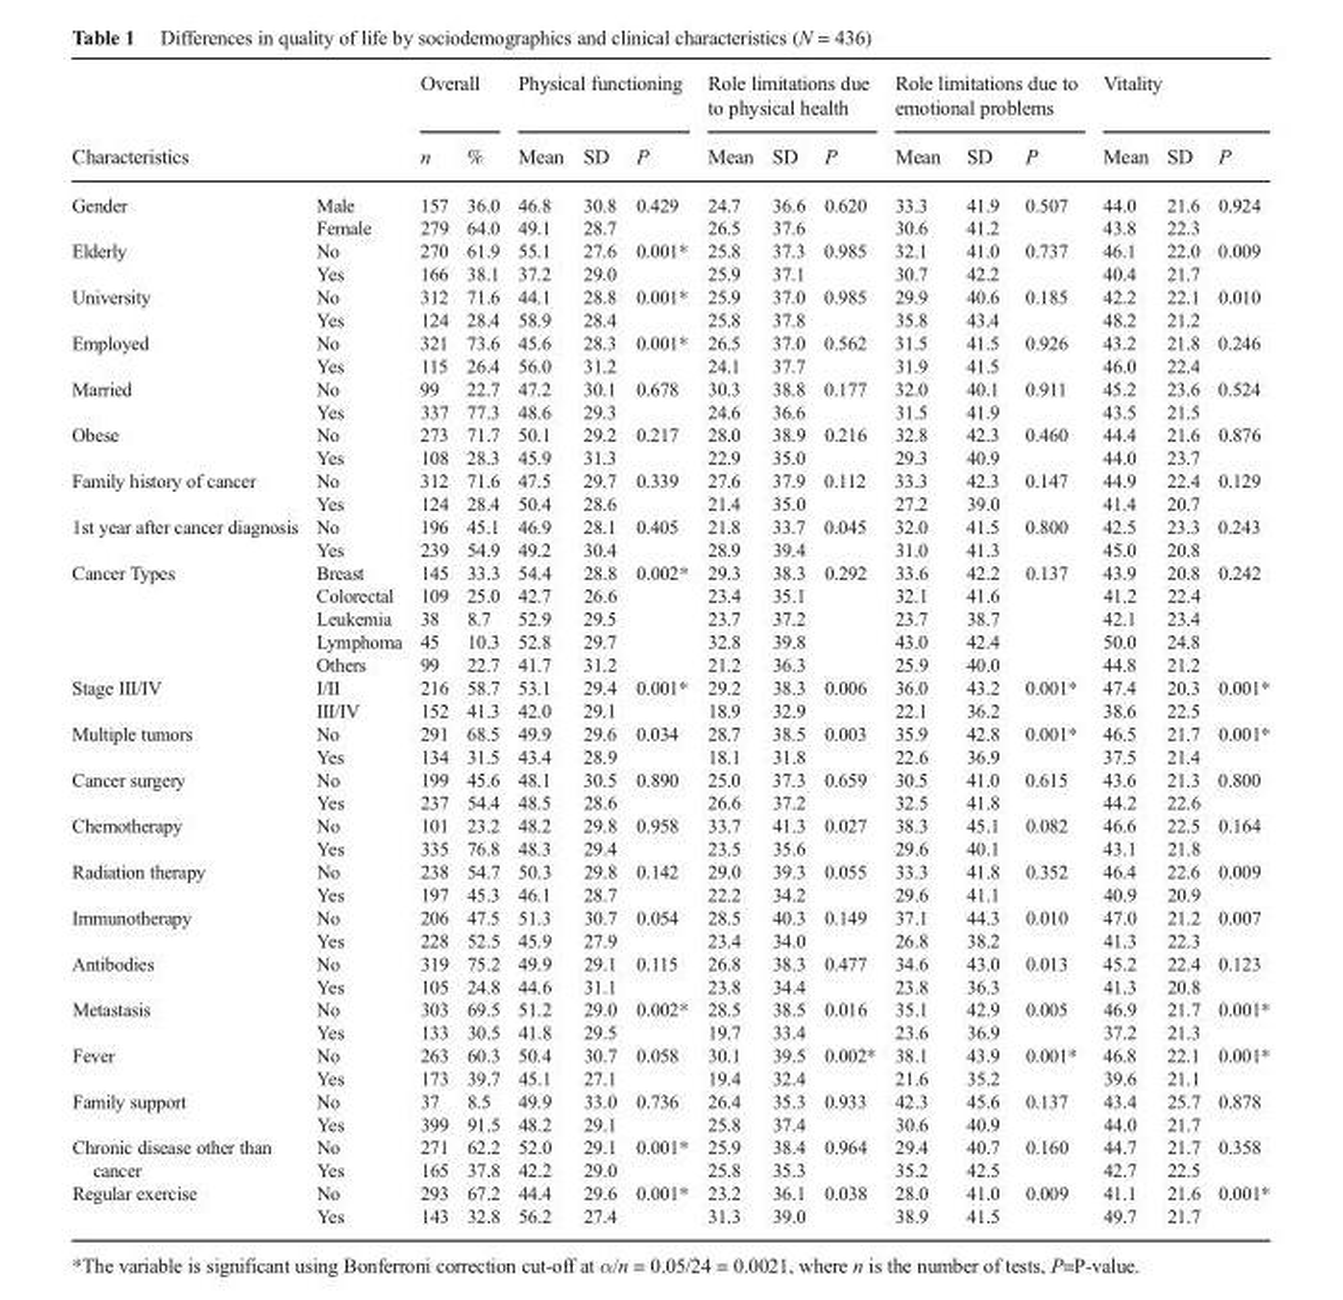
<table><thead><tr><td></td><td></td><td colspan="2">Overall</td><td colspan="3">Physical functioning</td><td colspan="3">Role limitations due to physical health</td><td colspan="3">Role limitations due to emotional problems</td><td colspan="3">Vitality</td></tr><tr><td colspan="2">Characteristics</td><td>n</td><td>%</td><td>Mean</td><td>SD</td><td>P</td><td>Mean</td><td>SD</td><td>P</td><td>Mean</td><td>SD</td><td>P</td><td>Mean</td><td>SD</td><td>P</td></tr></thead><tbody><tr><td rowspan="2">Gender</td><td>Male</td><td>157</td><td>36.0</td><td>46.8</td><td>30.8</td><td>0.429</td><td>24.7</td><td>36.6</td><td>0.620</td><td>33.3</td><td>41.9</td><td>0.507</td><td>44.0</td><td>21.6</td><td>0.924</td></tr><tr><td>Female</td><td>279</td><td>64.0</td><td>49.1</td><td>28.7</td><td></td><td>26.5</td><td>37.6</td><td></td><td>30.6</td><td>41.2</td><td></td><td>43.8</td><td>22.3</td><td></td></tr><tr><td rowspan="2">Elderly</td><td>No</td><td>270</td><td>61.9</td><td>55.1</td><td>27.6</td><td>0.001*</td><td>25.8</td><td>37.3</td><td>0.985</td><td>32.1</td><td>41.0</td><td>0.737</td><td>46.1</td><td>22.0</td><td>0.009</td></tr><tr><td>Yes</td><td>166</td><td>38.1</td><td>37.2</td><td>29.0</td><td></td><td>25.9</td><td>37.1</td><td></td><td>30.7</td><td>42.2</td><td></td><td>40.4</td><td>21.7</td><td></td></tr><tr><td rowspan="2">University</td><td>No</td><td>312</td><td>71.6</td><td>44.1</td><td>28.8</td><td>0.001*</td><td>25.9</td><td>37.0</td><td>0.985</td><td>29.9</td><td>40.6</td><td>0.185</td><td>42.2</td><td>22.1</td><td>0.010</td></tr><tr><td>Yes</td><td>124</td><td>28.4</td><td>58.9</td><td>28.4</td><td></td><td>25.8</td><td>37.8</td><td></td><td>35.8</td><td>43.4</td><td></td><td>48.2</td><td>21.2</td><td></td></tr><tr><td rowspan="2">Employed</td><td>No</td><td>321</td><td>73.6</td><td>45.6</td><td>28.3</td><td>0.001*</td><td>26.5</td><td>37.0</td><td>0.562</td><td>31.5</td><td>41.5</td><td>0.926</td><td>43.2</td><td>21.8</td><td>0.246</td></tr><tr><td>Yes</td><td>115</td><td>26.4</td><td>56.0</td><td>31.2</td><td></td><td>24.1</td><td>37.7</td><td></td><td>31.9</td><td>41.5</td><td></td><td>46.0</td><td>22.4</td><td></td></tr><tr><td rowspan="2">Married</td><td>No</td><td>99</td><td>22.7</td><td>47.2</td><td>30.1</td><td>0.678</td><td>30.3</td><td>38.8</td><td>0.177</td><td>32.0</td><td>40.1</td><td>0.911</td><td>45.2</td><td>23.6</td><td>0.524</td></tr><tr><td>Yes</td><td>337</td><td>77.3</td><td>48.6</td><td>29.3</td><td></td><td>24.6</td><td>36.6</td><td></td><td>31.5</td><td>41.9</td><td></td><td>43.5</td><td>21.5</td><td></td></tr><tr><td rowspan="2">Obese</td><td>No</td><td>273</td><td>71.7</td><td>50.1</td><td>29.2</td><td>0.217</td><td>28.0</td><td>38.9</td><td>0.216</td><td>32.8</td><td>42.3</td><td>0.460</td><td>44.4</td><td>21.6</td><td>0.876</td></tr><tr><td>Yes</td><td>108</td><td>28.3</td><td>45.9</td><td>31.3</td><td></td><td>22.9</td><td>35.0</td><td></td><td>29.3</td><td>40.9</td><td></td><td>44.0</td><td>23.7</td><td></td></tr><tr><td rowspan="2">Family history of cancer</td><td>No</td><td>312</td><td>71.6</td><td>47.5</td><td>29.7</td><td>0.339</td><td>27.6</td><td>37.9</td><td>0.112</td><td>33.3</td><td>42.3</td><td>0.147</td><td>44.9</td><td>22.4</td><td>0.129</td></tr><tr><td>Yes</td><td>124</td><td>28.4</td><td>50.4</td><td>28.6</td><td></td><td>21.4</td><td>35.0</td><td></td><td>27.2</td><td>39.0</td><td></td><td>41.4</td><td>20.7</td><td></td></tr><tr><td rowspan="2">1st year after cancer diagnosis</td><td>No</td><td>196</td><td>45.1</td><td>46.9</td><td>28.1</td><td>0.405</td><td>21.8</td><td>33.7</td><td>0.045</td><td>32.0</td><td>41.5</td><td>0.800</td><td>42.5</td><td>23.3</td><td>0.243</td></tr><tr><td>Yes</td><td>239</td><td>54.9</td><td>49.2</td><td>30.4</td><td></td><td>28.9</td><td>39.4</td><td></td><td>31.0</td><td>41.3</td><td></td><td>45.0</td><td>20.8</td><td></td></tr><tr><td rowspan="5">Cancer Types</td><td>Breast</td><td>145</td><td>33.3</td><td>54.4</td><td>28.8</td><td>0.002*</td><td>29.3</td><td>38.3</td><td>0.292</td><td>33.6</td><td>42.2</td><td>0.137</td><td>43.9</td><td>20.8</td><td>0.242</td></tr><tr><td>Colorectal</td><td>109</td><td>25.0</td><td>42.7</td><td>26.6</td><td></td><td>23.4</td><td>35.1</td><td></td><td>32.1</td><td>41.6</td><td></td><td>41.2</td><td>22.4</td><td></td></tr><tr><td>Leukemia</td><td>38</td><td>8.7</td><td>52.9</td><td>29.5</td><td></td><td>23.7</td><td>37.2</td><td></td><td>23.7</td><td>38.7</td><td></td><td>42.1</td><td>23.4</td><td></td></tr><tr><td>Lymphoma</td><td>45</td><td>10.3</td><td>52.8</td><td>29.7</td><td></td><td>32.8</td><td>39.8</td><td></td><td>43.0</td><td>42.4</td><td></td><td>50.0</td><td>24.8</td><td></td></tr><tr><td>Others</td><td>99</td><td>22.7</td><td>41.7</td><td>31.2</td><td></td><td>21.2</td><td>36.3</td><td></td><td>25.9</td><td>40.0</td><td></td><td>44.8</td><td>21.2</td><td></td></tr><tr><td rowspan="2">Stage III/IV</td><td>I/II</td><td>216</td><td>58.7</td><td>53.1</td><td>29.4</td><td>0.001*</td><td>29.2</td><td>38.3</td><td>0.006</td><td>36.0</td><td>43.2</td><td>0.001*</td><td>47.4</td><td>20.3</td><td>0.001*</td></tr><tr><td>III/IV</td><td>152</td><td>41.3</td><td>42.0</td><td>29.1</td><td></td><td>18.9</td><td>32.9</td><td></td><td>22.1</td><td>36.2</td><td></td><td>38.6</td><td>22.5</td><td></td></tr><tr><td rowspan="2">Multiple tumors</td><td>No</td><td>291</td><td>68.5</td><td>49.9</td><td>29.6</td><td>0.034</td><td>28.7</td><td>38.5</td><td>0.003</td><td>35.9</td><td>42.8</td><td>0.001*</td><td>46.5</td><td>21.7</td><td>0.001*</td></tr><tr><td>Yes</td><td>134</td><td>31.5</td><td>43.4</td><td>28.9</td><td></td><td>18.1</td><td>31.8</td><td></td><td>22.6</td><td>36.9</td><td></td><td>37.5</td><td>21.4</td><td></td></tr><tr><td rowspan="2">Cancer surgery</td><td>No</td><td>199</td><td>45.6</td><td>48.1</td><td>30.5</td><td>0.890</td><td>25.0</td><td>37.3</td><td>0.659</td><td>30.5</td><td>41.0</td><td>0.615</td><td>43.6</td><td>21.3</td><td>0.800</td></tr><tr><td>Yes</td><td>237</td><td>54.4</td><td>48.5</td><td>28.6</td><td></td><td>26.6</td><td>37.2</td><td></td><td>32.5</td><td>41.8</td><td></td><td>44.2</td><td>22.6</td><td></td></tr><tr><td rowspan="2">Chemotherapy</td><td>No</td><td>101</td><td>23.2</td><td>48.2</td><td>29.8</td><td>0.958</td><td>33.7</td><td>41.3</td><td>0.027</td><td>38.3</td><td>45.1</td><td>0.082</td><td>46.6</td><td>22.5</td><td>0.164</td></tr><tr><td>Yes</td><td>335</td><td>76.8</td><td>48.3</td><td>29.4</td><td></td><td>23.5</td><td>35.6</td><td></td><td>29.6</td><td>40.1</td><td></td><td>43.1</td><td>21.8</td><td></td></tr><tr><td rowspan="2">Radiation therapy</td><td>No</td><td>238</td><td>54.7</td><td>50.3</td><td>29.8</td><td>0.142</td><td>29.0</td><td>39.3</td><td>0.055</td><td>33.3</td><td>41.8</td><td>0.352</td><td>46.4</td><td>22.6</td><td>0.009</td></tr><tr><td>Yes</td><td>197</td><td>45.3</td><td>46.1</td><td>28.7</td><td></td><td>22.2</td><td>34.2</td><td></td><td>29.6</td><td>41.1</td><td></td><td>40.9</td><td>20.9</td><td></td></tr><tr><td rowspan="2">Immunotherapy</td><td>No</td><td>206</td><td>47.5</td><td>51.3</td><td>30.7</td><td>0.054</td><td>28.5</td><td>40.3</td><td>0.149</td><td>37.1</td><td>44.3</td><td>0.010</td><td>47.0</td><td>21.2</td><td>0.007</td></tr><tr><td>Yes</td><td>228</td><td>52.5</td><td>45.9</td><td>27.9</td><td></td><td>23.4</td><td>34.0</td><td></td><td>26.8</td><td>38.2</td><td></td><td>41.3</td><td>22.3</td><td></td></tr><tr><td rowspan="2">Antibodies</td><td>No</td><td>319</td><td>75.2</td><td>49.9</td><td>29.1</td><td>0.115</td><td>26.8</td><td>38.3</td><td>0.477</td><td>34.6</td><td>43.0</td><td>0.013</td><td>45.2</td><td>22.4</td><td>0.123</td></tr><tr><td>Yes</td><td>105</td><td>24.8</td><td>44.6</td><td>31.1</td><td></td><td>23.8</td><td>34.4</td><td></td><td>23.8</td><td>36.3</td><td></td><td>41.3</td><td>20.8</td><td></td></tr><tr><td rowspan="2">Metastasis</td><td>No</td><td>303</td><td>69.5</td><td>51.2</td><td>29.0</td><td>0.002*</td><td>28.5</td><td>38.5</td><td>0.016</td><td>35.1</td><td>42.9</td><td>0.005</td><td>46.9</td><td>21.7</td><td>0.001*</td></tr><tr><td>Yes</td><td>133</td><td>30.5</td><td>41.8</td><td>29.5</td><td></td><td>19.7</td><td>33.4</td><td></td><td>23.6</td><td>36.9</td><td></td><td>37.2</td><td>21.3</td><td></td></tr><tr><td rowspan="2">Fever</td><td>No</td><td>263</td><td>60.3</td><td>50.4</td><td>30.7</td><td>0.058</td><td>30.1</td><td>39.5</td><td>0.002*</td><td>38.1</td><td>43.9</td><td>0.001*</td><td>46.8</td><td>22.1</td><td>0.001*</td></tr><tr><td>Yes</td><td>173</td><td>39.7</td><td>45.1</td><td>27.1</td><td></td><td>19.4</td><td>32.4</td><td></td><td>21.6</td><td>35.2</td><td></td><td>39.6</td><td>21.1</td><td></td></tr><tr><td rowspan="2">Family support</td><td>No</td><td>37</td><td>8.5</td><td>49.9</td><td>33.0</td><td>0.736</td><td>26.4</td><td>35.3</td><td>0.933</td><td>42.3</td><td>45.6</td><td>0.137</td><td>43.4</td><td>25.7</td><td>0.878</td></tr><tr><td>Yes</td><td>399</td><td>91.5</td><td>48.2</td><td>29.1</td><td></td><td>25.8</td><td>37.4</td><td></td><td>30.6</td><td>40.9</td><td></td><td>44.0</td><td>21.7</td><td></td></tr><tr><td rowspan="2">Chronic disease other than cancer</td><td>No</td><td>271</td><td>62.2</td><td>52.0</td><td>29.1</td><td>0.001*</td><td>25.9</td><td>38.4</td><td>0.964</td><td>29.4</td><td>40.7</td><td>0.160</td><td>44.7</td><td>21.7</td><td>0.358</td></tr><tr><td>Yes</td><td>165</td><td>37.8</td><td>42.2</td><td>29.0</td><td></td><td>25.8</td><td>35.3</td><td></td><td>35.2</td><td>42.5</td><td></td><td>42.7</td><td>22.5</td><td></td></tr><tr><td rowspan="2">Regular exercise</td><td>No</td><td>293</td><td>67.2</td><td>44.4</td><td>29.6</td><td>0.001*</td><td>23.2</td><td>36.1</td><td>0.038</td><td>28.0</td><td>41.0</td><td>0.009</td><td>41.1</td><td>21.6</td><td>0.001*</td></tr><tr><td>Yes</td><td>143</td><td>32.8</td><td>56.2</td><td>27.4</td><td></td><td>31.3</td><td>39.0</td><td></td><td>38.9</td><td>41.5</td><td></td><td>49.7</td><td>21.7</td><td></td></tr></tbody></table>